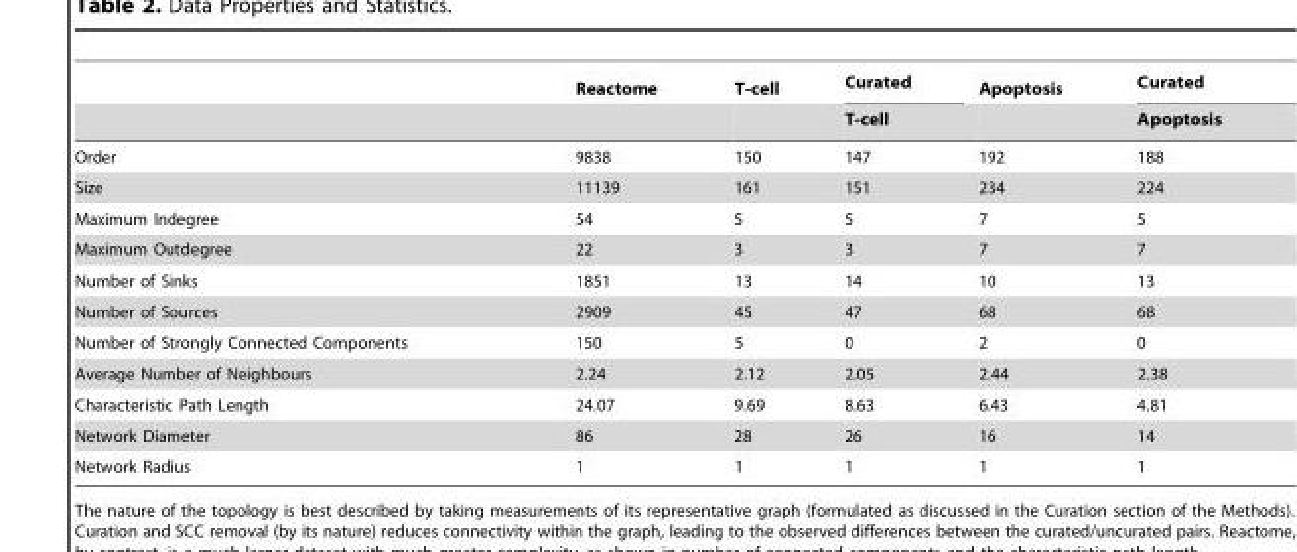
<table><thead><tr><td rowspan="2"></td><td rowspan="2">Reactome</td><td rowspan="2">T-cell</td><td rowspan="2">Curated T-cell</td><td rowspan="2">Apoptosis</td><td rowspan="2">Curated Apoptosis</td></tr><tr></tr></thead><tbody><tr><td>Order</td><td>9838</td><td>150</td><td>147</td><td>192</td><td>188</td></tr><tr><td>Size</td><td>11139</td><td>161</td><td>151</td><td>234</td><td>224</td></tr><tr><td>Maximum Indegree</td><td>54</td><td>5</td><td>5</td><td>7</td><td>5</td></tr><tr><td>Maximum Outdegree</td><td>22</td><td>3</td><td>3</td><td>7</td><td>7</td></tr><tr><td>Number of Sinks</td><td>1851</td><td>13</td><td>14</td><td>10</td><td>13</td></tr><tr><td>Number of Sources</td><td>2909</td><td>45</td><td>47</td><td>68</td><td>68</td></tr><tr><td>Number of Strongly Connected Components</td><td>150</td><td>5</td><td>0</td><td>2</td><td>0</td></tr><tr><td>Average Number of Neighbours</td><td>2.24</td><td>2.12</td><td>2.05</td><td>2.44</td><td>2.38</td></tr><tr><td>Characteristic Path Length</td><td>24.07</td><td>9.69</td><td>8.63</td><td>6.43</td><td>4.81</td></tr><tr><td>Network Diameter</td><td>86</td><td>28</td><td>26</td><td>16</td><td>14</td></tr><tr><td>Network Radius</td><td>1</td><td>1</td><td>1</td><td>1</td><td>1</td></tr></tbody></table>